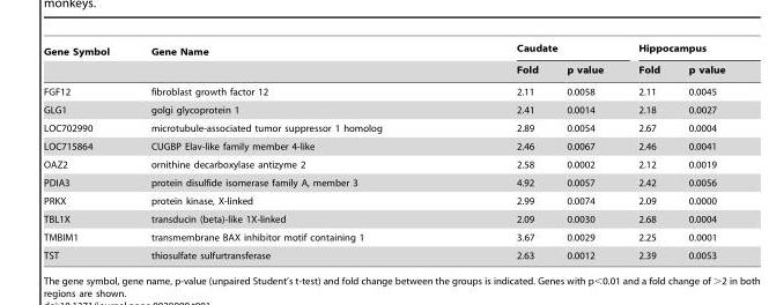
<table><thead><tr><td rowspan="2">Gene Symbol</td><td rowspan="2">Gene Name</td><td colspan="2">Caudate</td><td colspan="2">Hippocampus</td></tr><tr><td>Fold</td><td>p value</td><td>Fold</td><td>p value</td></tr></thead><tbody><tr><td>FGF12</td><td>fibroblast growth factor 12</td><td>2.11</td><td>0.0058</td><td>2.11</td><td>0.0045</td></tr><tr><td>GLG1</td><td>golgi glycoprotein 1</td><td>2.41</td><td>0.0014</td><td>2.18</td><td>0.0027</td></tr><tr><td>LOC702990</td><td>microtubule-associated tumor suppressor 1 homolog</td><td>2.89</td><td>0.0054</td><td>2.67</td><td>0.0004</td></tr><tr><td>LOC715864</td><td>CUGBP Elav-like family member 4-like</td><td>2.46</td><td>0.0067</td><td>2.46</td><td>0.0041</td></tr><tr><td>OAZ2</td><td>ornithine decarboxylase antizyme 2</td><td>2.58</td><td>0.0002</td><td>2.12</td><td>0.0019</td></tr><tr><td>PDIA3</td><td>protein disulfide isomerase family A, member 3</td><td>4.92</td><td>0.0057</td><td>2.42</td><td>0.0056</td></tr><tr><td>PRKX</td><td>protein kinase, X-linked</td><td>2.99</td><td>0.0074</td><td>2.09</td><td>0.0000</td></tr><tr><td>TBL1X</td><td>transducin (beta)-like 1X-linked</td><td>2.09</td><td>0.0030</td><td>2.68</td><td>0.0004</td></tr><tr><td>TMBIM1</td><td>transmembrane BAX inhibitor motif containing 1</td><td>3.67</td><td>0.0029</td><td>2.25</td><td>0.0001</td></tr><tr><td>TST</td><td>thiosulfate sulfurtransferase</td><td>2.63</td><td>0.0012</td><td>2.39</td><td>0.0053</td></tr></tbody></table>